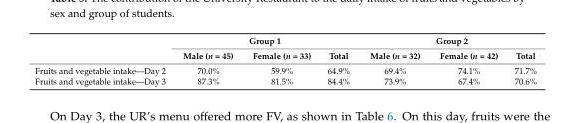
<table><thead><tr><td rowspan="2"></td><td colspan="3">Group 1</td><td colspan="3">Group 2</td></tr><tr><td>Male (n = 45)</td><td>Female (n = 33)</td><td>Total</td><td>Male (n = 32)</td><td>Female (n = 42)</td><td>Total</td></tr></thead><tbody><tr><td>Fruits and vegetable intake—Day 2</td><td>70.0%</td><td>59.9%</td><td>64.9%</td><td>69.4%</td><td>74.1%</td><td>71.7%</td></tr><tr><td>Fruits and vegetable intake—Day 3</td><td>87.3%</td><td>81.5%</td><td>84.4%</td><td>73.9%</td><td>67.4%</td><td>70.6%</td></tr></tbody></table>